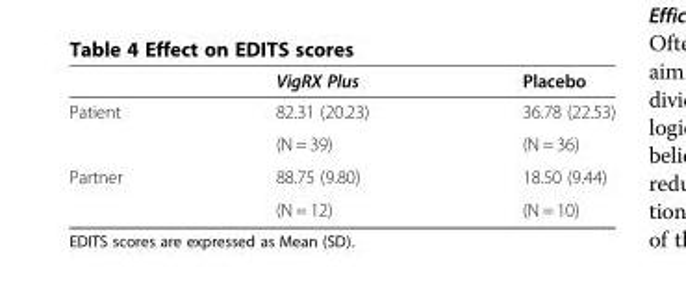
<table><thead><tr><td></td><td>VigRX Plus</td><td>Placebo</td></tr></thead><tbody><tr><td rowspan="2">Patient</td><td>82.31 (20.23)</td><td>36.78 (22.53)</td></tr><tr><td>(N = 39)</td><td>(N = 36)</td></tr><tr><td rowspan="2">Partner</td><td>88.75 (9.80)</td><td>18.50 (9.44)</td></tr><tr><td>(N = 12)</td><td>(N = 10)</td></tr></tbody></table>